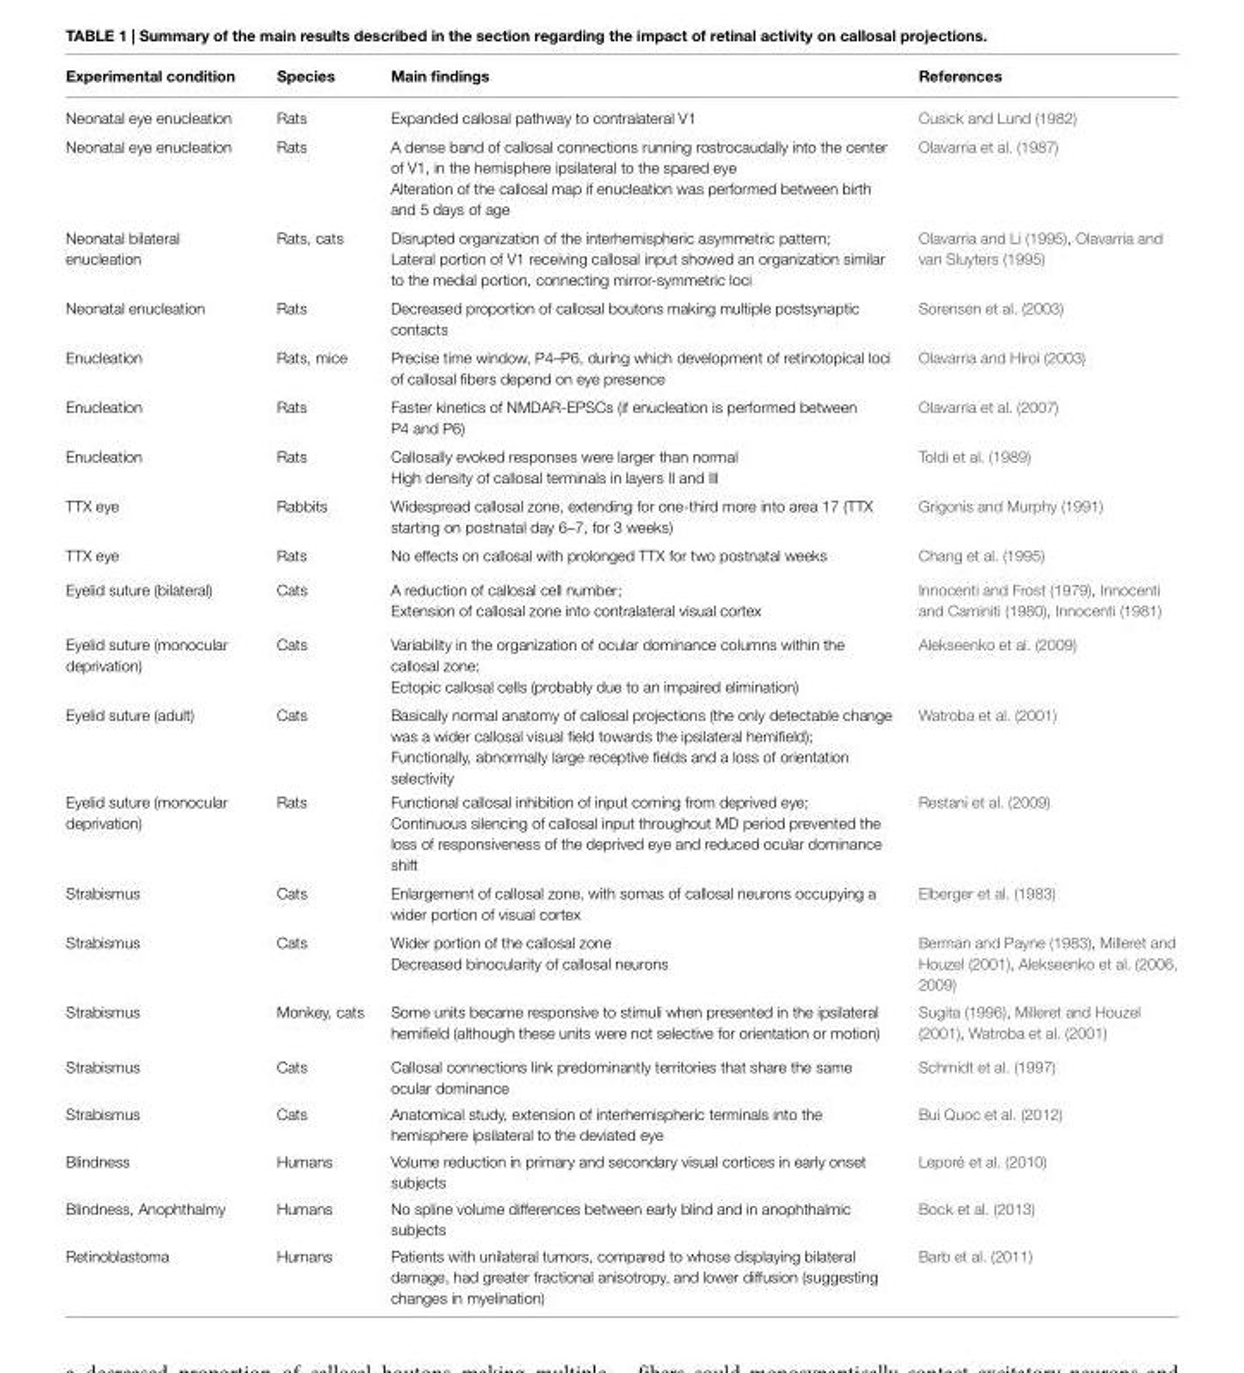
<table><thead><tr><td>Experimental condition</td><td>Species</td><td>Main findings</td><td>References</td></tr></thead><tbody><tr><td>Neonatal eye enucleation</td><td>Rats</td><td>Expanded callosal pathway to contralateral V1</td><td>Cusick and Lund (1982)</td></tr><tr><td>Neonatal eye enucleation</td><td>Rats</td><td>A dense band of callosal connections running rostrocaudally into the center of V1, in the hemisphere ipsilateral to the spared eye Alteration of the callosal map if enucleation was performed between birth and 5 days of age</td><td>Olavarria et al. (1987)</td></tr><tr><td>Neonatal bilateral enucleation</td><td>Rats, cats</td><td>Disrupted organization of the interhemispheric asymmetric pattern; Lateral portion of V1 receiving callosal input showed an organization similar to the medial portion, connecting mirror-symmetric loci</td><td>Olavarria and Li (1995), Olavarria and van Sluyters (1995)</td></tr><tr><td>Neonatal enucleation</td><td>Rats</td><td>Decreased proportion of callosal boutons making multiple postsynaptic contacts</td><td>Sorensen et al. (2003)</td></tr><tr><td>Enucleation</td><td>Rats, mice</td><td>Precise time window, P4–P6, during which development of retinotopical loci of callosal fibers depend on eye presence</td><td>Olavarria and Hiroi (2003)</td></tr><tr><td>Enucleation</td><td>Rats</td><td>Faster kinetics of NMDAR-EPSCs (if enucleation is performed between P4 and P6)</td><td>Olavarria et al. (2007)</td></tr><tr><td>Enucleation</td><td>Rats</td><td>Callosally evoked responses were larger than normal High density of callosal terminals in layers II and III</td><td>Toldi et al. (1989)</td></tr><tr><td>TTX eye</td><td>Rabbits</td><td>Widespread callosal zone, extending for one-third more into area 17 (TTX starting on postnatal day 6–7, for 3 weeks)</td><td>Grigonis and Murphy (1991)</td></tr><tr><td>TTX eye</td><td>Rats</td><td>No effects on callosal with prolonged TTX for two postnatal weeks</td><td>Chang et al. (1995)</td></tr><tr><td>Eyelid suture (bilateral)</td><td>Cats</td><td>A reduction of callosal cell number; Extension of callosal zone into contralateral visual cortex</td><td>Innocenti and Frost (1979), Innocenti and Caminiti (1980), Innocenti (1981)</td></tr><tr><td>Eyelid suture (monocular deprivation)</td><td>Cats</td><td>Variability in the organization of ocular dominance columns within the callosal zone; Ectopic callosal cells (probably due to an impaired elimination)</td><td>Alekseenko et al. (2009)</td></tr><tr><td>Eyelid suture (adult)</td><td>Cats</td><td>Basically normal anatomy of callosal projections (the only detectable change was a wider callosal visual field towards the ipsilateral hemifield); Functionally, abnormally large receptive fields and a loss of orientation selectivity</td><td>Watroba et al. (2001)</td></tr><tr><td>Eyelid suture (monocular deprivation)</td><td>Rats</td><td>Functional callosal inhibition of input coming from deprived eye; Continuous silencing of callosal input throughout MD period prevented the loss of responsiveness of the deprived eye and reduced ocular dominance shift</td><td>Restani et al. (2009)</td></tr><tr><td>Strabismus</td><td>Cats</td><td>Enlargement of callosal zone, with somas of callosal neurons occupying a wider portion of visual cortex</td><td>Elberger et al. (1983)</td></tr><tr><td>Strabismus</td><td>Cats</td><td>Wider portion of the callosal zone Decreased binocularity of callosal neurons</td><td>Berman and Payne (1983), Milleret and Houzel (2001), Alekseenko et al. (2006, 2009)</td></tr><tr><td>Strabismus</td><td>Monkey, cats</td><td>Some units became responsive to stimuli when presented in the ipsilateral hemifield (although these units were not selective for orientation or motion)</td><td>Sugita (1996), Milleret and Houzel (2001), Watroba et al. (2001)</td></tr><tr><td>Strabismus</td><td>Cats</td><td>Callosal connections link predominantly territories that share the same ocular dominance</td><td>Schmidt et al. (1997)</td></tr><tr><td>Strabismus</td><td>Cats</td><td>Anatomical study, extension of interhemispheric terminals into the hemisphere ipsilateral to the deviated eye</td><td>Bui Quoc et al. (2012)</td></tr><tr><td>Blindness</td><td>Humans</td><td>Volume reduction in primary and secondary visual cortices in early onset subjects</td><td>Leporé et al. (2010)</td></tr><tr><td>Blindness, Anophthalmy</td><td>Humans</td><td>No spline volume differences between early blind and in anophthalmic subjects</td><td>Bock et al. (2013)</td></tr><tr><td>Retinoblastoma</td><td>Humans</td><td>Patients with unilateral tumors, compared to whose displaying bilateral damage, had greater fractional anisotropy, and lower diffusion (suggesting changes in myelination)</td><td>Barb et al. (2011)</td></tr></tbody></table>